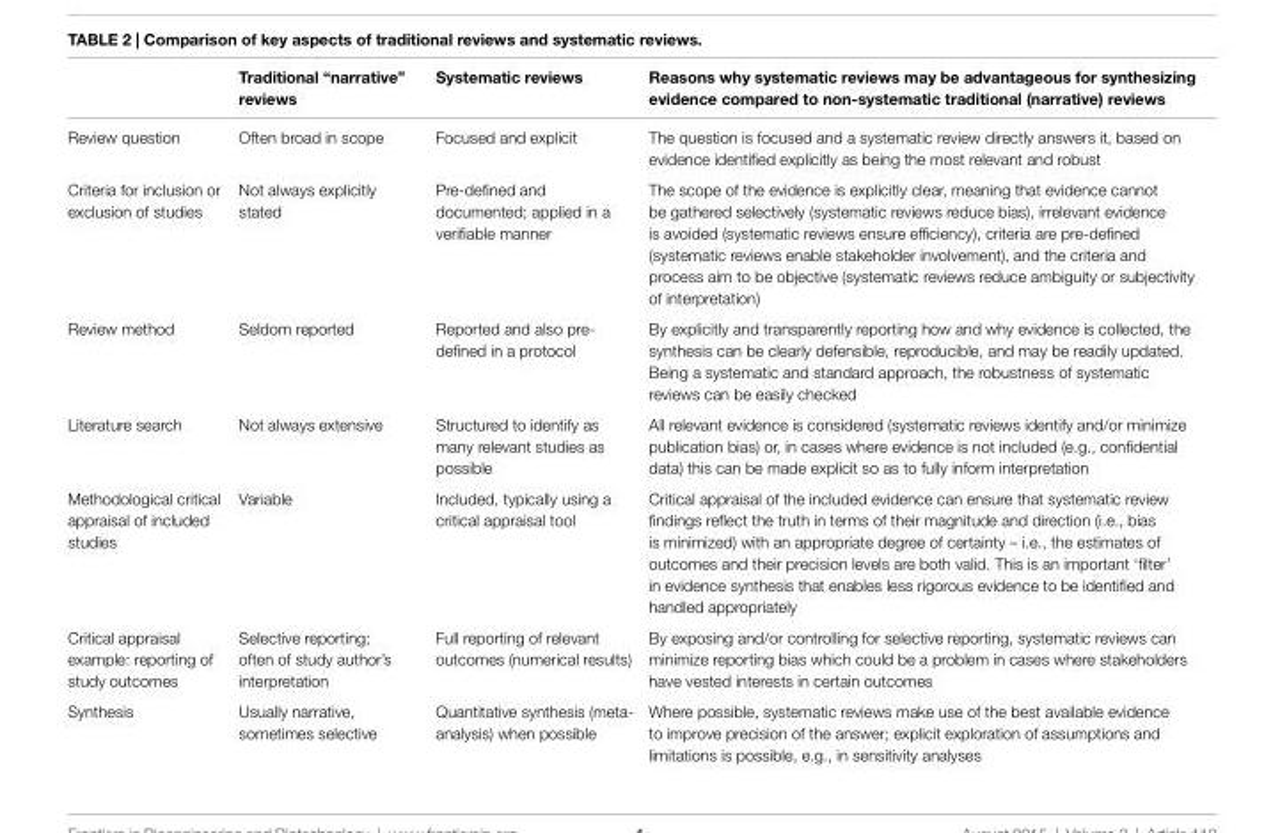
<table><thead><tr><td></td><td>traditional “narrative” reviews</td><td>systematic reviews</td><td>Reasons why systematic reviews may be advantageous for synthesizing evidence compared to non-systematic traditional (narrative) reviews</td></tr></thead><tbody><tr><td>Review question</td><td>Often broad in scope</td><td>Focused and explicit</td><td>The question is focused and a systematic review directly answers it, based on evidence identified explicitly as being the most relevant and robust</td></tr><tr><td>Criteria for inclusion or exclusion of studies</td><td>Not always explicitly stated</td><td>Pre-defined and documented; applied in a verifiable manner</td><td>The scope of the evidence is explicitly clear, meaning that evidence cannot be gathered selectively (systematic reviews reduce bias), irrelevant evidence is avoided (systematic reviews ensure efficiency), criteria are pre-defined (systematic reviews enable stakeholder involvement), and the criteria and process aim to be objective (systematic reviews reduce ambiguity or subjectivity of interpretation)</td></tr><tr><td>Review method</td><td>Seldom reported</td><td>Reported and also pre- defined in a protocol</td><td>By explicitly and transparently reporting how and why evidence is collected, the synthesis can be clearly defensible, reproducible, and may be readily updated. Being a systematic and standard approach, the robustness of systematic reviews can be easily checked</td></tr><tr><td>Literature search</td><td>Not always extensive</td><td>Structured to identify as many relevant studies as possible</td><td>All relevant evidence is considered (systematic reviews identify and/or minimize publication bias) or, in cases where evidence is not included (e.g., confidential data) this can be made explicit so as to fully inform interpretation</td></tr><tr><td>Methodological critical appraisal of included studies</td><td>Variable</td><td>Included, typically using a critical appraisal tool</td><td>Critical appraisal of the included evidence can ensure that systematic review findings reflect the truth in terms of their magnitude and direction (i.e., bias is minimized) with an appropriate degree of certainty – i.e., the estimates of outcomes and their precision levels are both valid. This is an important ‘filter’ in evidence synthesis that enables less rigorous evidence to be identified and handled appropriately</td></tr><tr><td>Critical appraisal example: reporting of study outcomes</td><td>Selective reporting; often of study author’s interpretation</td><td>Full reporting of relevant outcomes (numerical results)</td><td>By exposing and/or controlling for selective reporting, systematic reviews can minimize reporting bias which could be a problem in cases where stakeholders have vested interests in certain outcomes</td></tr><tr><td>Synthesis</td><td>Usually narrative, sometimes selective</td><td>Quantitative synthesis (meta- analysis) when possible</td><td>Where possible, systematic reviews make use of the best available evidence to improve precision of the answer; explicit exploration of assumptions and limitations is possible, e.g., in sensitivity analyses</td></tr></tbody></table>